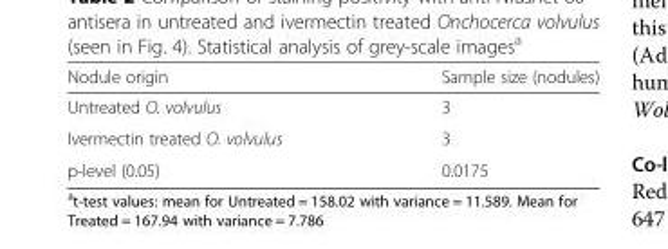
<table><thead><tr><td>Nodule origin</td><td>Sample size (nodules)</td></tr></thead><tbody><tr><td>Untreated O. volvulus</td><td>3</td></tr><tr><td>Ivermectin treated O. volvulus</td><td>3</td></tr><tr><td>p-level (0.05)</td><td>0.0175</td></tr></tbody></table>